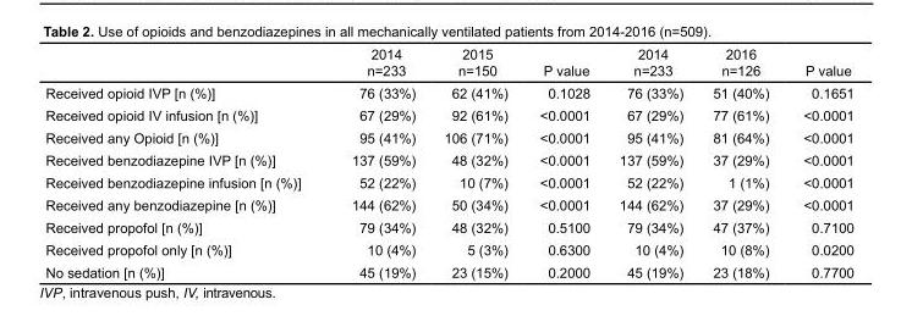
<table><thead><tr><td></td><td>2014 n=233</td><td>2015 n=150</td><td>P value</td><td>2014 n=233</td><td>2016 n=126</td><td>P value</td></tr></thead><tbody><tr><td>Received opioid IVP [n (%)]</td><td>76 (33%)</td><td>62 (41%)</td><td>0.1028</td><td>76 (33%)</td><td>51 (40%)</td><td>0.1651</td></tr><tr><td>Received opioid IV infusion [n (%)]</td><td>67 (29%)</td><td>92 (61%)</td><td>&lt;0.0001</td><td>67 (29%)</td><td>77 (61%)</td><td>&lt;0.0001</td></tr><tr><td>Received any Opioid [n (%)]</td><td>95 (41%)</td><td>106 (71%)</td><td>&lt;0.0001</td><td>95 (41%)</td><td>81 (64%)</td><td>&lt;0.0001</td></tr><tr><td>Received benzodiazepine IVP [n (%)]</td><td>137 (59%)</td><td>48 (32%)</td><td>&lt;0.0001</td><td>137 (59%)</td><td>37 (29%)</td><td>&lt;0.0001</td></tr><tr><td>Received benzodiazepine infusion [n (%)]</td><td>52 (22%)</td><td>10 (7%)</td><td>&lt;0.0001</td><td>52 (22%)</td><td>1 (1%)</td><td>&lt;0.0001</td></tr><tr><td>Received any benzodiazepine [n (%)]</td><td>144 (62%)</td><td>50 (34%)</td><td>&lt;0.0001</td><td>144 (62%)</td><td>37 (29%)</td><td>&lt;0.0001</td></tr><tr><td>Received propofol [n (%)]</td><td>79 (34%)</td><td>48 (32%)</td><td>0.5100</td><td>79 (34%)</td><td>47 (37%)</td><td>0.7100</td></tr><tr><td>Received propofol only [n (%)]</td><td>10 (4%)</td><td>5 (3%)</td><td>0.6300</td><td>10 (4%)</td><td>10 (8%)</td><td>0.0200</td></tr><tr><td>No sedation [n (%)]</td><td>45 (19%)</td><td>23 (15%)</td><td>0.2000</td><td>45 (19%)</td><td>23 (18%)</td><td>0.7700</td></tr></tbody></table>